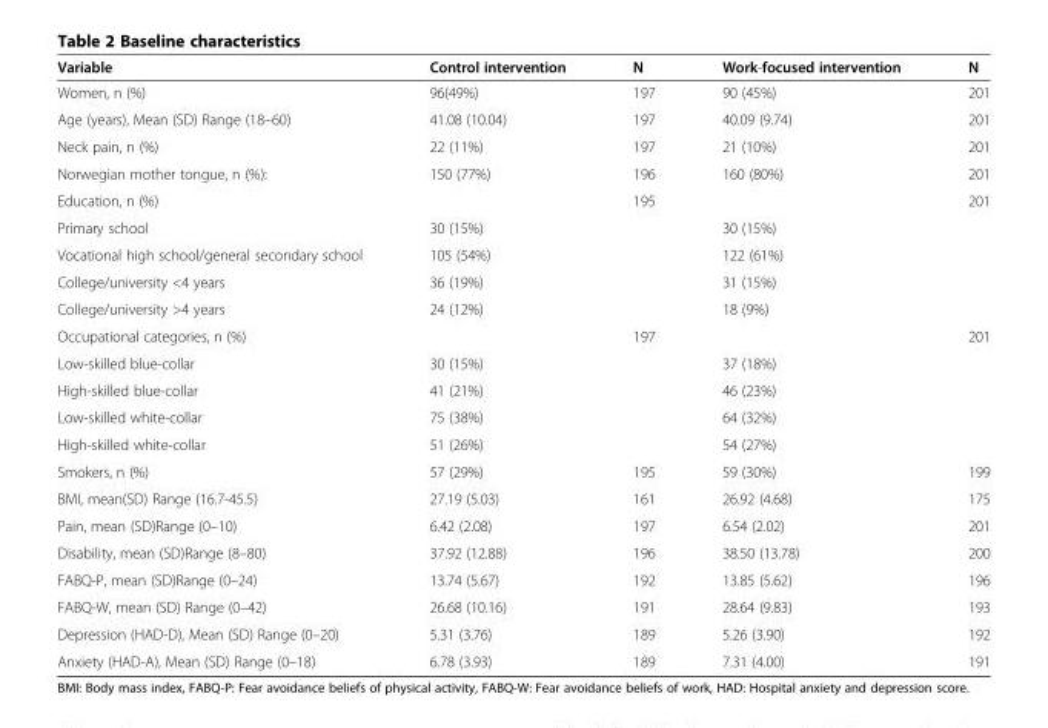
<table><thead><tr><td>Variable</td><td>Control intervention</td><td>N</td><td>Work-focused intervention</td><td>N</td></tr></thead><tbody><tr><td>Women, n (%)</td><td>96(49%)</td><td>197</td><td>90 (45%)</td><td>201</td></tr><tr><td>Age (years), Mean (SD) Range (18–60)</td><td>41.08 (10.04)</td><td>197</td><td>40.09 (9.74)</td><td>201</td></tr><tr><td>Neck pain, n (%)</td><td>22 (11%)</td><td>197</td><td>21 (10%)</td><td>201</td></tr><tr><td>Norwegian mother tongue, n (%):</td><td>150 (77%)</td><td>196</td><td>160 (80%)</td><td>201</td></tr><tr><td>Education, n (%)</td><td></td><td>195</td><td></td><td>201</td></tr><tr><td>Primary school</td><td>30 (15%)</td><td></td><td>30 (15%)</td><td></td></tr><tr><td>Vocational high school/general secondary school</td><td>105 (54%)</td><td></td><td>122 (61%)</td><td></td></tr><tr><td>College/university &lt;4 years</td><td>36 (19%)</td><td></td><td>31 (15%)</td><td></td></tr><tr><td>College/university &gt;4 years</td><td>24 (12%)</td><td></td><td>18 (9%)</td><td></td></tr><tr><td>Occupational categories, n (%)</td><td></td><td>197</td><td></td><td>201</td></tr><tr><td>Low-skilled blue-collar</td><td>30 (15%)</td><td></td><td>37 (18%)</td><td></td></tr><tr><td>High-skilled blue-collar</td><td>41 (21%)</td><td></td><td>46 (23%)</td><td></td></tr><tr><td>Low-skilled white-collar</td><td>75 (38%)</td><td></td><td>64 (32%)</td><td></td></tr><tr><td>High-skilled white-collar</td><td>51 (26%)</td><td></td><td>54 (27%)</td><td></td></tr><tr><td>Smokers, n (%)</td><td>57 (29%)</td><td>195</td><td>59 (30%)</td><td>199</td></tr><tr><td>BMI, mean(SD) Range (16.7-45.5)</td><td>27.19 (5.03)</td><td>161</td><td>26.92 (4.68)</td><td>175</td></tr><tr><td>Pain, mean (SD)Range (0–10)</td><td>6.42 (2.08)</td><td>197</td><td>6.54 (2.02)</td><td>201</td></tr><tr><td>Disability, mean (SD)Range (8–80)</td><td>37.92 (12.88)</td><td>196</td><td>38.50 (13.78)</td><td>200</td></tr><tr><td>FABQ-P, mean (SD)Range (0–24)</td><td>13.74 (5.67)</td><td>192</td><td>13.85 (5.62)</td><td>196</td></tr><tr><td>FABQ-W, mean (SD) Range (0–42)</td><td>26.68 (10.16)</td><td>191</td><td>28.64 (9.83)</td><td>193</td></tr><tr><td>Depression (HAD-D), Mean (SD) Range (0–20)</td><td>5.31 (3.76)</td><td>189</td><td>5.26 (3.90)</td><td>192</td></tr><tr><td>Anxiety (HAD-A), Mean (SD) Range (0–18)</td><td>6.78 (3.93)</td><td>189</td><td>7.31 (4.00)</td><td>191</td></tr></tbody></table>